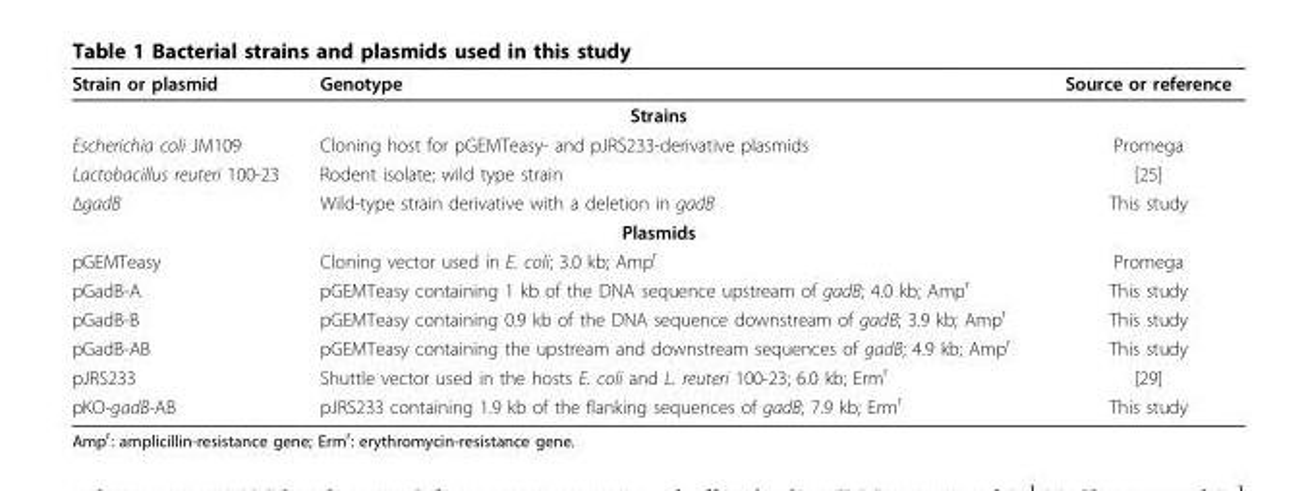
<table><thead><tr><td>Strain or plasmid</td><td>Genotype</td><td>Source or reference</td></tr></thead><tbody><tr><td colspan="3">Strains</td></tr><tr><td>Escherichia coli JM109</td><td>Cloning host for pGEMTeasy- and pJRS233-derivative plasmids</td><td>Promega</td></tr><tr><td>Lactobacillus reuteri 100-23</td><td>Rodent isolate; wild type strain</td><td>[25]</td></tr><tr><td>ΔgadB</td><td>Wild-type strain derivative with a deletion in gadB</td><td>This study</td></tr><tr><td colspan="3">Plasmids</td></tr><tr><td>pGEMTeasy</td><td>Cloning vector used in E. coli; 3.0 kb; Amp<sup>r</sup></td><td>Promega</td></tr><tr><td>pGadB-A</td><td>pGEMTeasy containing 1 kb of the DNA sequence upstream of gadB; 4.0 kb; Amp<sup>r</sup></td><td>This study</td></tr><tr><td>pGadB-B</td><td>pGEMTeasy containing 0.9 kb of the DNA sequence downstream of gadB; 3.9 kb; Amp<sup>r</sup></td><td>This study</td></tr><tr><td>pGadB-AB</td><td>pGEMTeasy containing the upstream and downstream sequences of gadB; 4.9 kb; Amp<sup>r</sup></td><td>This study</td></tr><tr><td>pJRS233</td><td>Shuttle vector used in the hosts E. coli and L. reuteri 100-23; 6.0 kb; Erm<sup>r</sup></td><td>[29]</td></tr><tr><td>pKO-gadB-AB</td><td>pJRS233 containing 1.9 kb of the flanking sequences of gadB; 7.9 kb; Erm<sup>r</sup></td><td>This study</td></tr></tbody></table>